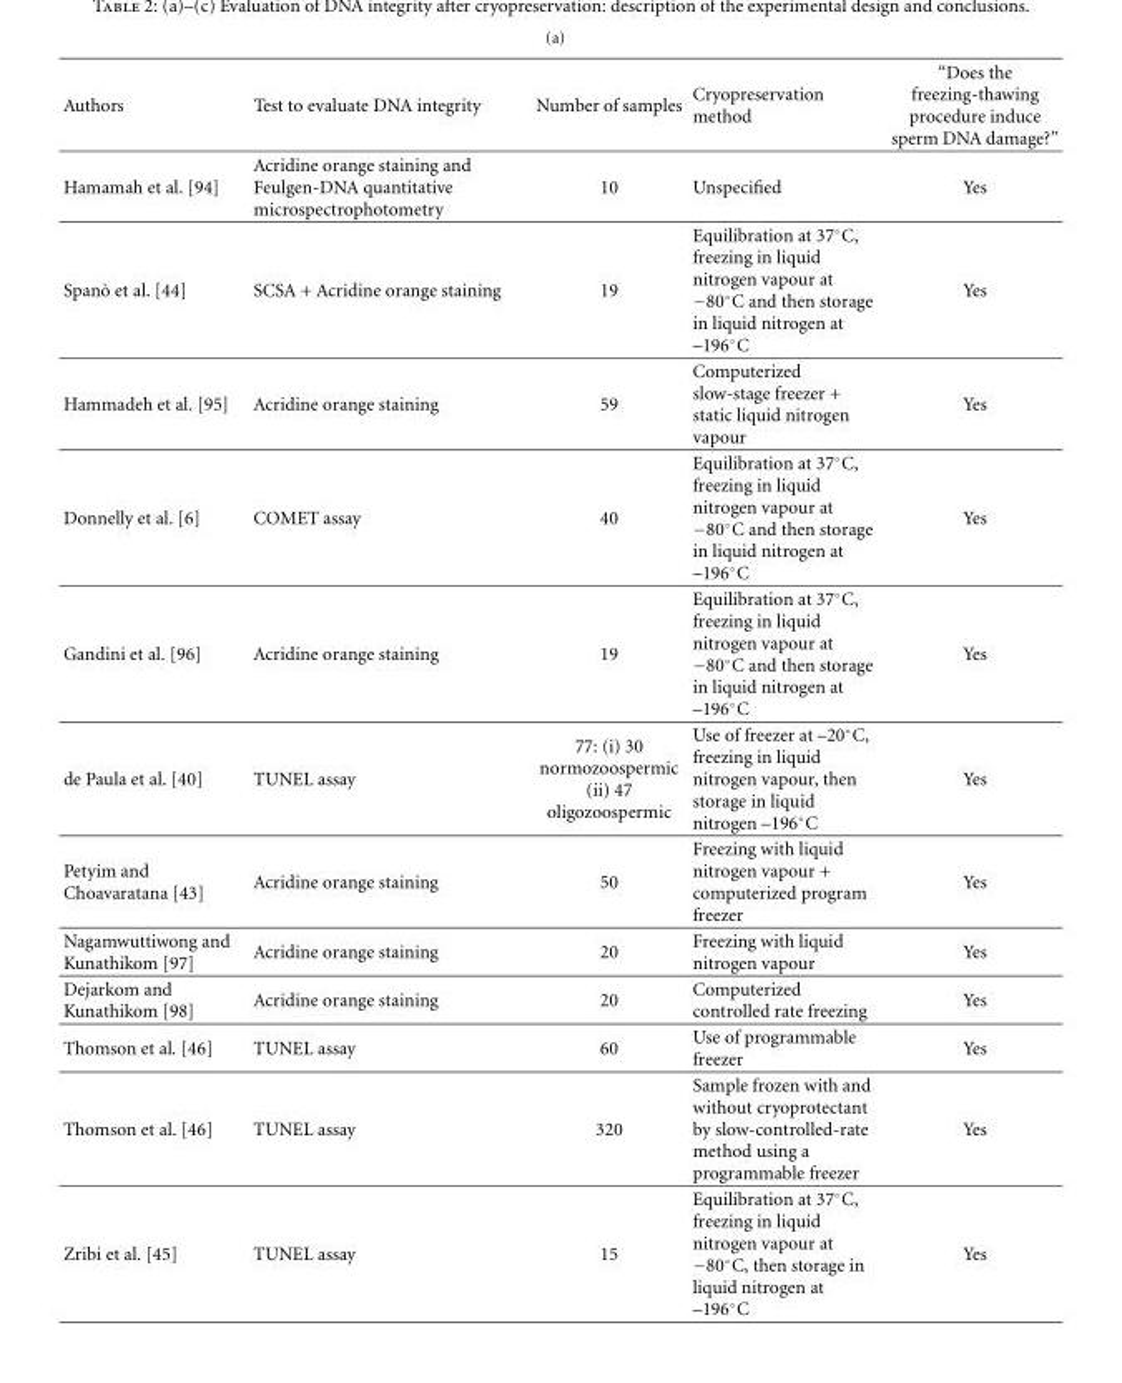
<table><thead><tr><td>Authors</td><td>Test to evaluate DNA integrity</td><td>Number of samples</td><td>Cryopreservation method</td><td>“Does the freezing-thawing procedure induce sperm DNA damage?”</td></tr></thead><tbody><tr><td>Hamamah et al. [94]</td><td>Acridine orange staining and Feulgen-DNA quantitative microspectrophotometry</td><td>10</td><td>Unspecified</td><td>Yes</td></tr><tr><td>Span`o et al. [44]</td><td>SCSA + Acridine orange staining</td><td>19</td><td>Equilibration at 37◦C, freezing in liquid nitrogen vapour at −80◦C and then storage in liquid nitrogen at –196◦C</td><td>Yes</td></tr><tr><td>Hammadeh et al. [95]</td><td>Acridine orange staining</td><td>59</td><td>Computerized slow-stage freezer + static liquid nitrogen vapour</td><td>Yes</td></tr><tr><td>Donnelly et al. [6]</td><td>COMET assay</td><td>40</td><td>Equilibration at 37◦C, freezing in liquid nitrogen vapour at −80◦C and then storage in liquid nitrogen at –196◦C</td><td>Yes</td></tr><tr><td>Gandini et al. [96]</td><td>Acridine orange staining</td><td>19</td><td>Equilibration at 37◦C, freezing in liquid nitrogen vapour at −80◦C and then storage in liquid nitrogen at –196◦C</td><td>Yes</td></tr><tr><td>de Paula et al. [40]</td><td>TUNEL assay</td><td>77: (i) 30 normozoospermic (ii) 47 oligozoospermic</td><td>Use of freezer at –20◦C, freezing in liquid nitrogen vapour, then storage in liquid nitrogen –196◦C</td><td>Yes</td></tr><tr><td>Petyim and Choavaratana [43]</td><td>Acridine orange staining</td><td>50</td><td>Freezing with liquid nitrogen vapour + computerized program freezer</td><td>Yes</td></tr><tr><td>Nagamwuttiwong and Kunathikom [97]</td><td>Acridine orange staining</td><td>20</td><td>Freezing with liquid nitrogen vapour</td><td>Yes</td></tr><tr><td>Dejarkom and Kunathikom [98]</td><td>Acridine orange staining</td><td>20</td><td>Computerized controlled rate freezing</td><td>Yes</td></tr><tr><td>Thomson et al. [46]</td><td>TUNEL assay</td><td>60</td><td>Use of programmable freezer</td><td>Yes</td></tr><tr><td>Thomson et al. [46]</td><td>TUNEL assay</td><td>320</td><td>Sample frozen with and without cryoprotectant by slow-controlled-rate method using a programmable freezer</td><td>Yes</td></tr><tr><td>Zribi et al. [45]</td><td>TUNEL assay</td><td>15</td><td>Equilibration at 37◦C, freezing in liquid nitrogen vapour at −80◦C, then storage in liquid nitrogen at –196◦C</td><td>Yes</td></tr></tbody></table>